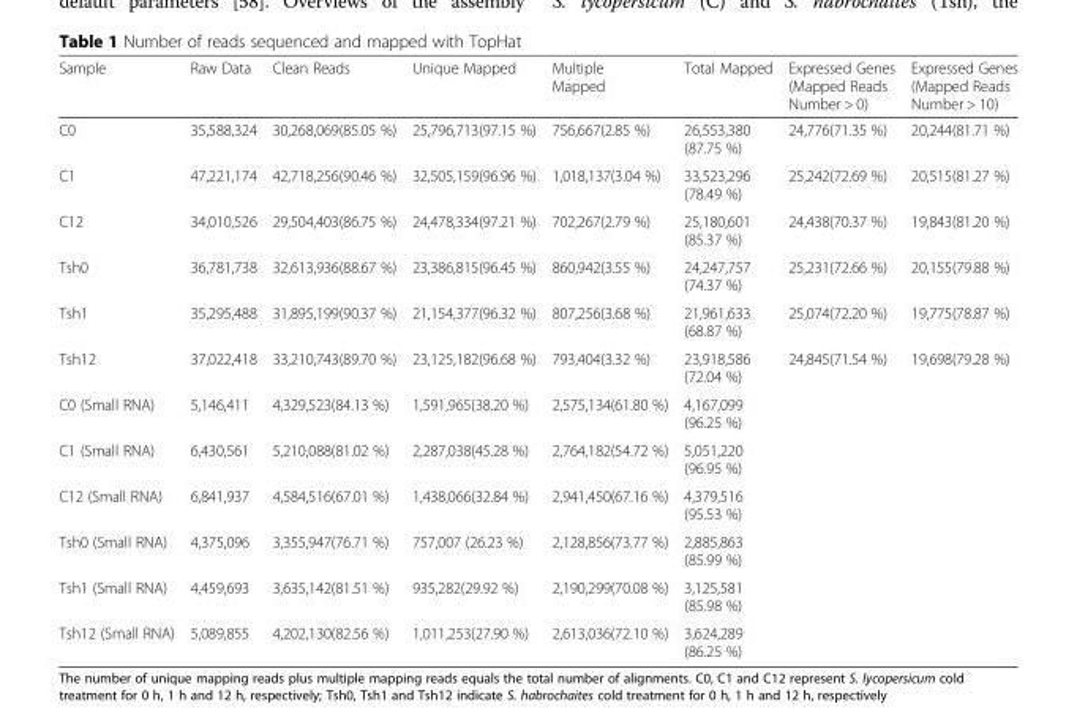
<table><thead><tr><td>Sample</td><td>Raw Data</td><td>Clean Reads</td><td>Unique Mapped</td><td>Multiple Mapped</td><td>Total Mapped</td><td>Expressed Genes (Mapped Reads Number &gt; 0)</td><td>Expressed Genes (Mapped Reads Number &gt; 10)</td></tr></thead><tbody><tr><td>C0</td><td>35,588,324</td><td>30,268,069(85.05 %)</td><td>25,796,713(97.15 %)</td><td>756,667(2.85 %)</td><td>26,553,380 (87.75 %)</td><td>24,776(71.35 %)</td><td>20,244(81.71 %)</td></tr><tr><td>C1</td><td>47,221,174</td><td>42,718,256(90.46 %)</td><td>32,505,159(96.96 %)</td><td>1,018,137(3.04 %)</td><td>33,523,296 (78.49 %)</td><td>25,242(72.69 %)</td><td>20,515(81.27 %)</td></tr><tr><td>C12</td><td>34,010,526</td><td>29,504,403(86.75 %)</td><td>24,478,334(97.21 %)</td><td>702,267(2.79 %)</td><td>25,180,601 (85.37 %)</td><td>24,438(70.37 %)</td><td>19,843(81.20 %)</td></tr><tr><td>Tsh0</td><td>36,781,738</td><td>32,613,936(88.67 %)</td><td>23,386,815(96.45 %)</td><td>860,942(3.55 %)</td><td>24,247,757 (74.37 %)</td><td>25,231(72.66 %)</td><td>20,155(79.88 %)</td></tr><tr><td>Tsh1</td><td>35,295,488</td><td>31,895,199(90.37 %)</td><td>21,154,377(96.32 %)</td><td>807,256(3.68 %)</td><td>21,961,633 (68.87 %)</td><td>25,074(72.20 %)</td><td>19,775(78.87 %)</td></tr><tr><td>Tsh12</td><td>37,022,418</td><td>33,210,743(89.70 %)</td><td>23,125,182(96.68 %)</td><td>793,404(3.32 %)</td><td>23,918,586 (72.04 %)</td><td>24,845(71.54 %)</td><td>19,698(79.28 %)</td></tr><tr><td>C0 (Small RNA)</td><td>5,146,411</td><td>4,329,523(84.13 %)</td><td>1,591,965(38.20 %)</td><td>2,575,134(61.80 %)</td><td>4,167,099 (96.25 %)</td><td></td><td></td></tr><tr><td>C1 (Small RNA)</td><td>6,430,561</td><td>5,210,088(81.02 %)</td><td>2,287,038(45.28 %)</td><td>2,764,182(54.72 %)</td><td>5,051,220 (96.95 %)</td><td></td><td></td></tr><tr><td>C12 (Small RNA)</td><td>6,841,937</td><td>4,584,516(67.01 %)</td><td>1,438,066(32.84 %)</td><td>2,941,450(67.16 %)</td><td>4,379,516 (95.53 %)</td><td></td><td></td></tr><tr><td>Tsh0 (Small RNA)</td><td>4,375,096</td><td>3,355,947(76.71 %)</td><td>757,007 (26.23 %)</td><td>2,128,856(73.77 %)</td><td>2,885,863 (85.99 %)</td><td></td><td></td></tr><tr><td>Tsh1 (Small RNA)</td><td>4,459,693</td><td>3,635,142(81.51 %)</td><td>935,282(29.92 %)</td><td>2,190,299(70.08 %)</td><td>3,125,581 (85.98 %)</td><td></td><td></td></tr><tr><td>Tsh12 (Small RNA)</td><td>5,089,855</td><td>4,202,130(82.56 %)</td><td>1,011,253(27.90 %)</td><td>2,613,036(72.10 %)</td><td>3,624,289 (86.25 %)</td><td></td><td></td></tr></tbody></table>